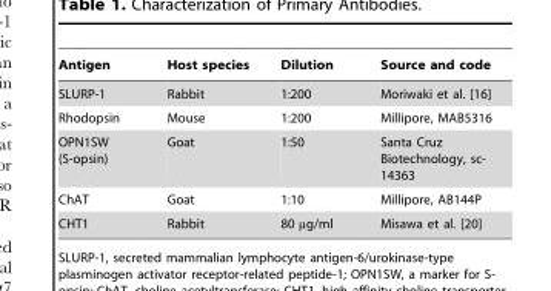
<table><thead><tr><td>Antigen</td><td>Host species</td><td>Dilution</td><td>Source and code</td></tr></thead><tbody><tr><td>SLURP-1</td><td>Rabbit</td><td>1:200</td><td>Moriwaki et al. [16]</td></tr><tr><td>Rhodopsin</td><td>Mouse</td><td>1:200</td><td>Millipore, MAB5316</td></tr><tr><td>OPN1SW (S-opsin)</td><td>Goat</td><td>1:50</td><td>Santa Cruz Biotechnology, sc- 14363</td></tr><tr><td>ChAT</td><td>Goat</td><td>1:10</td><td>Millipore, AB144P</td></tr><tr><td>CHT1</td><td>Rabbit</td><td>80 µg/ml</td><td>Misawa et al. [20]</td></tr></tbody></table>